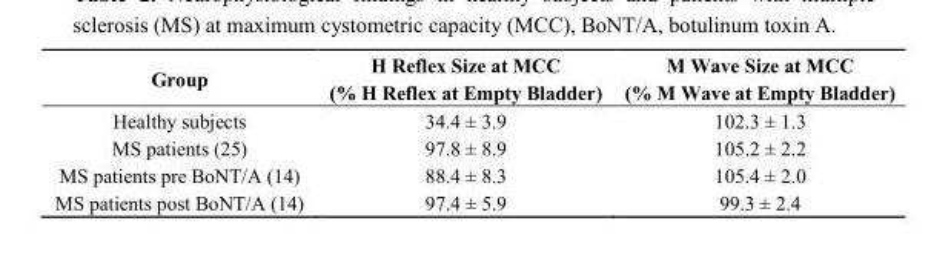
<table><thead><tr><td>Group</td><td>H Reflex Size at MCC (% H Reflex at Empty Bladder)</td><td>M Wave Size at MCC (% M Wave at Empty Bladder)</td></tr></thead><tbody><tr><td>Healthy subjects</td><td>34.4 ± 3.9</td><td>102.3 ± 1.3</td></tr><tr><td>MS patients (25)</td><td>97.8 ± 8.9</td><td>105.2 ± 2.2</td></tr><tr><td>MS patients pre BoNT/A (14)</td><td>88.4 ± 8.3</td><td>105.4 ± 2.0</td></tr><tr><td>MS patients post BoNT/A (14)</td><td>97.4 ± 5.9</td><td>99.3 ± 2.4</td></tr></tbody></table>